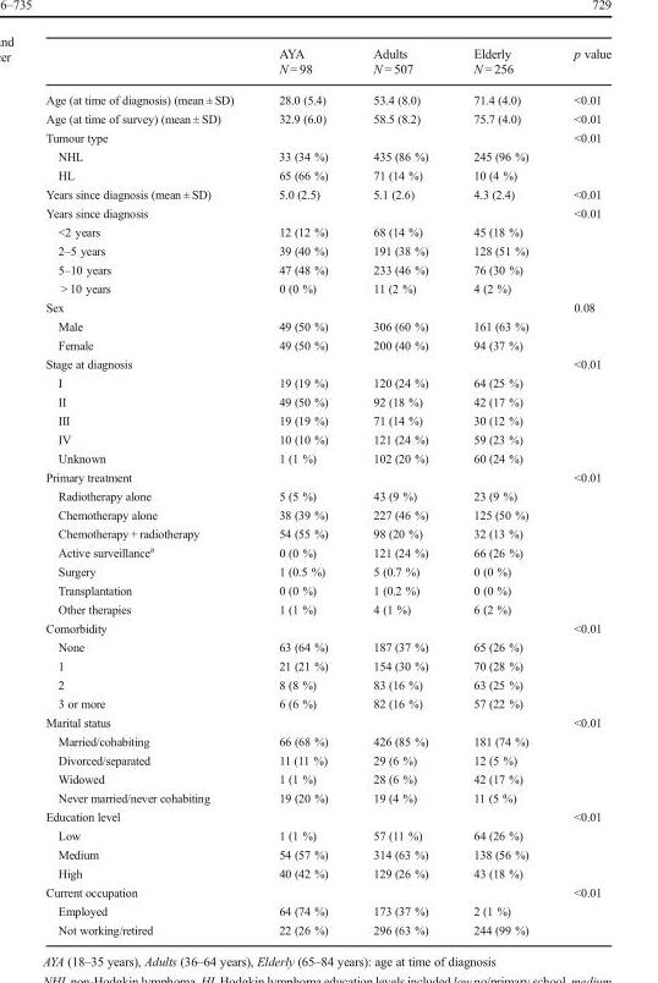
<table><thead><tr><td rowspan="2"></td><td rowspan="2">AYA N = 98</td><td rowspan="2">Adults N = 507</td><td rowspan="2">Elderly N = 256</td><td rowspan="2">p value</td></tr><tr></tr></thead><tbody><tr><td>Age (at time of diagnosis) (mean ± SD)</td><td>28.0 (5.4)</td><td>53.4 (8.0)</td><td>71.4 (4.0)</td><td>&lt;0.01</td></tr><tr><td>Age (at time of survey) (mean ± SD)</td><td>32.9 (6.0)</td><td>58.5 (8.2)</td><td>75.7 (4.0)</td><td>&lt;0.01</td></tr><tr><td>Tumour type</td><td></td><td></td><td></td><td>&lt;0.01</td></tr><tr><td>NHL</td><td>33 (34 %)</td><td>435 (86 %)</td><td>245 (96 %)</td><td></td></tr><tr><td>HL</td><td>65 (66 %)</td><td>71 (14 %)</td><td>10 (4 %)</td><td></td></tr><tr><td>Years since diagnosis (mean ± SD)</td><td>5.0 (2.5)</td><td>5.1 (2.6)</td><td>4.3 (2.4)</td><td>&lt;0.01</td></tr><tr><td>Years since diagnosis</td><td></td><td></td><td></td><td>&lt;0.01</td></tr><tr><td>&lt;2 years</td><td>12 (12 %)</td><td>68 (14 %)</td><td>45 (18 %)</td><td></td></tr><tr><td>2–5 years</td><td>39 (40 %)</td><td>191 (38 %)</td><td>128 (51 %)</td><td></td></tr><tr><td>5–10 years</td><td>47 (48 %)</td><td>233 (46 %)</td><td>76 (30 %)</td><td></td></tr><tr><td>&gt; 10 years</td><td>0 (0 %)</td><td>11 (2 %)</td><td>4 (2 %)</td><td></td></tr><tr><td>Sex</td><td></td><td></td><td></td><td>0.08</td></tr><tr><td>Male</td><td>49 (50 %)</td><td>306 (60 %)</td><td>161 (63 %)</td><td></td></tr><tr><td>Female</td><td>49 (50 %)</td><td>200 (40 %)</td><td>94 (37 %)</td><td></td></tr><tr><td>Stage at diagnosis</td><td></td><td></td><td></td><td>&lt;0.01</td></tr><tr><td>I</td><td>19 (19 %)</td><td>120 (24 %)</td><td>64 (25 %)</td><td></td></tr><tr><td>II</td><td>49 (50 %)</td><td>92 (18 %)</td><td>42 (17 %)</td><td></td></tr><tr><td>III</td><td>19 (19 %)</td><td>71 (14 %)</td><td>30 (12 %)</td><td></td></tr><tr><td>IV</td><td>10 (10 %)</td><td>121 (24 %)</td><td>59 (23 %)</td><td></td></tr><tr><td>Unknown</td><td>1 (1 %)</td><td>102 (20 %)</td><td>60 (24 %)</td><td></td></tr><tr><td>Primary treatment</td><td></td><td></td><td></td><td>&lt;0.01</td></tr><tr><td>Radiotherapy alone</td><td>5 (5 %)</td><td>43 (9 %)</td><td>23 (9 %)</td><td></td></tr><tr><td>Chemotherapy alone</td><td>38 (39 %)</td><td>227 (46 %)</td><td>125 (50 %)</td><td></td></tr><tr><td>Chemotherapy + radiotherapy</td><td>54 (55 %)</td><td>98 (20 %)</td><td>32 (13 %)</td><td></td></tr><tr><td>Active surveillance<sup>a</sup></td><td>0 (0 %)</td><td>121 (24 %)</td><td>66 (26 %)</td><td></td></tr><tr><td>Surgery</td><td>1 (0.5 %)</td><td>5 (0.7 %)</td><td>0 (0 %)</td><td></td></tr><tr><td>Transplantation</td><td>0 (0 %)</td><td>1 (0.2 %)</td><td>0 (0 %)</td><td></td></tr><tr><td>Other therapies</td><td>1 (1 %)</td><td>4 (1 %)</td><td>6 (2 %)</td><td></td></tr><tr><td>Comorbidity</td><td></td><td></td><td></td><td>&lt;0.01</td></tr><tr><td>None</td><td>63 (64 %)</td><td>187 (37 %)</td><td>65 (26 %)</td><td></td></tr><tr><td>1</td><td>21 (21 %)</td><td>154 (30 %)</td><td>70 (28 %)</td><td></td></tr><tr><td>2</td><td>8 (8 %)</td><td>83 (16 %)</td><td>63 (25 %)</td><td></td></tr><tr><td>3 or more</td><td>6 (6 %)</td><td>82 (16 %)</td><td>57 (22 %)</td><td></td></tr><tr><td>Marital status</td><td></td><td></td><td></td><td>&lt;0.01</td></tr><tr><td>Married/cohabiting</td><td>66 (68 %)</td><td>426 (85 %)</td><td>181 (74 %)</td><td></td></tr><tr><td>Divorced/separated</td><td>11 (11 %)</td><td>29 (6 %)</td><td>12 (5 %)</td><td></td></tr><tr><td>Widowed</td><td>1 (1 %)</td><td>28 (6 %)</td><td>42 (17 %)</td><td></td></tr><tr><td>Never married/never cohabiting</td><td>19 (20 %)</td><td>19 (4 %)</td><td>11 (5 %)</td><td></td></tr><tr><td>Education level</td><td></td><td></td><td></td><td>&lt;0.01</td></tr><tr><td>Low</td><td>1 (1 %)</td><td>57 (11 %)</td><td>64 (26 %)</td><td></td></tr><tr><td>Medium</td><td>54 (57 %)</td><td>314 (63 %)</td><td>138 (56 %)</td><td></td></tr><tr><td>High</td><td>40 (42 %)</td><td>129 (26 %)</td><td>43 (18 %)</td><td></td></tr><tr><td>Current occupation</td><td></td><td></td><td></td><td>&lt;0.01</td></tr><tr><td>Employed</td><td>64 (74 %)</td><td>173 (37 %)</td><td>2 (1 %)</td><td></td></tr><tr><td>Not working/retired</td><td>22 (26 %)</td><td>296 (63 %)</td><td>244 (99 %)</td><td></td></tr></tbody></table>